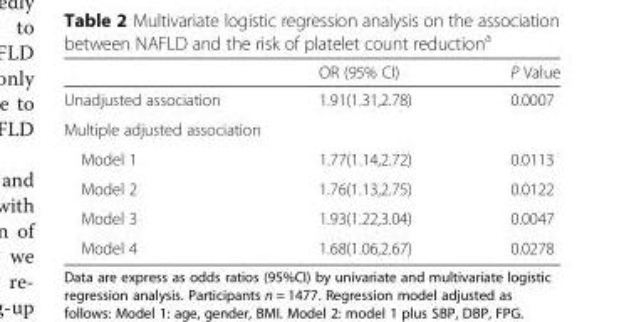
<table><thead><tr><td></td><td>OR (95% CI)</td><td>P Value</td></tr></thead><tbody><tr><td>Unadjusted association</td><td>1.91(1.31,2.78)</td><td>0.0007</td></tr><tr><td colspan="3">Multiple adjusted association</td></tr><tr><td>Model 1</td><td>1.77(1.14,2.72)</td><td>0.0113</td></tr><tr><td>Model 2</td><td>1.76(1.13,2.75)</td><td>0.0122</td></tr><tr><td>Model 3</td><td>1.93(1.22,3.04)</td><td>0.0047</td></tr><tr><td>Model 4</td><td>1.68(1.06,2.67)</td><td>0.0278</td></tr></tbody></table>